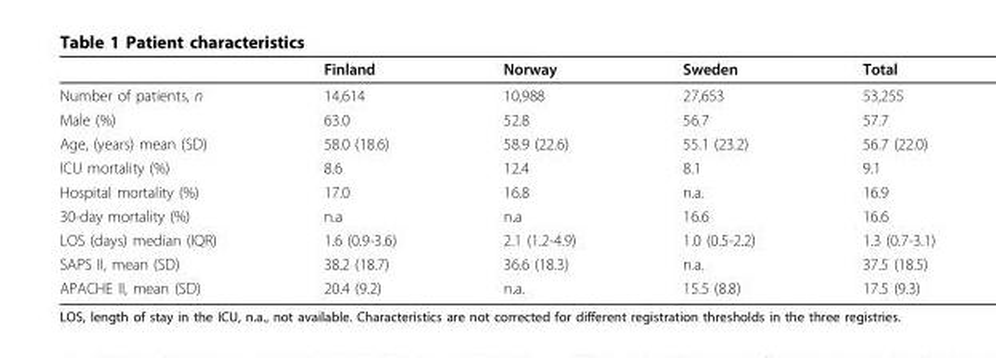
<table><thead><tr><td></td><td>Finland</td><td>Norway</td><td>Sweden</td><td>Total</td></tr></thead><tbody><tr><td>Number of patients, n</td><td>14,614</td><td>10,988</td><td>27,653</td><td>53,255</td></tr><tr><td>Male (%)</td><td>63.0</td><td>52.8</td><td>56.7</td><td>57.7</td></tr><tr><td>Age, (years) mean (SD)</td><td>58.0 (18.6)</td><td>58.9 (22.6)</td><td>55.1 (23.2)</td><td>56.7 (22.0)</td></tr><tr><td>ICU mortality (%)</td><td>8.6</td><td>12.4</td><td>8.1</td><td>9.1</td></tr><tr><td>Hospital mortality (%)</td><td>17.0</td><td>16.8</td><td>n.a.</td><td>16.9</td></tr><tr><td>30-day mortality (%)</td><td>n.a</td><td>n.a</td><td>16.6</td><td>16.6</td></tr><tr><td>LOS (days) median (IQR)</td><td>1.6 (0.9-3.6)</td><td>2.1 (1.2-4.9)</td><td>1.0 (0.5-2.2)</td><td>1.3 (0.7-3.1)</td></tr><tr><td>SAPS II, mean (SD)</td><td>38.2 (18.7)</td><td>36.6 (18.3)</td><td>n.a.</td><td>37.5 (18.5)</td></tr><tr><td>APACHE II, mean (SD)</td><td>20.4 (9.2)</td><td>n.a.</td><td>15.5 (8.8)</td><td>17.5 (9.3)</td></tr></tbody></table>